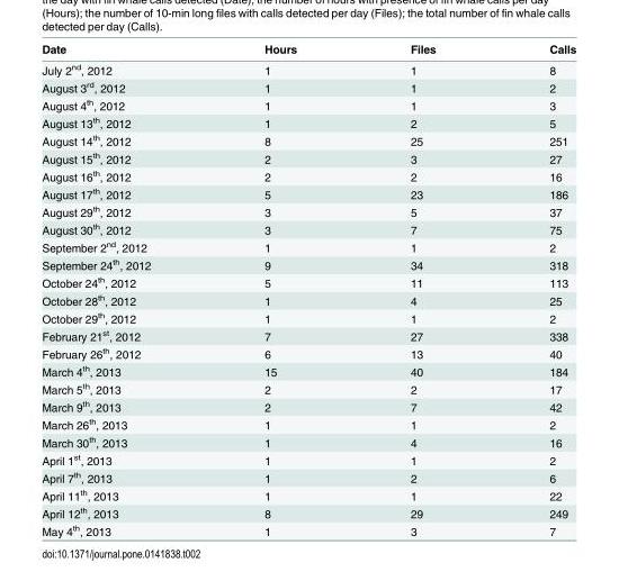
<table><thead><tr><td>Date</td><td>Hours</td><td>Files</td><td>Calls</td></tr></thead><tbody><tr><td>July 2<sup>nd</sup>, 2012</td><td>1</td><td>1</td><td>8</td></tr><tr><td>August 3<sup>rd</sup>, 2012</td><td>1</td><td>1</td><td>2</td></tr><tr><td>August 4<sup>th</sup>, 2012</td><td>1</td><td>1</td><td>3</td></tr><tr><td>August 13<sup>th</sup>, 2012</td><td>1</td><td>2</td><td>5</td></tr><tr><td>August 14<sup>th</sup>, 2012</td><td>8</td><td>25</td><td>251</td></tr><tr><td>August 15<sup>th</sup>, 2012</td><td>2</td><td>3</td><td>27</td></tr><tr><td>August 16<sup>th</sup>, 2012</td><td>2</td><td>2</td><td>16</td></tr><tr><td>August 17<sup>th</sup>, 2012</td><td>5</td><td>23</td><td>186</td></tr><tr><td>August 29<sup>th</sup>, 2012</td><td>3</td><td>5</td><td>37</td></tr><tr><td>August 30<sup>th</sup>, 2012</td><td>3</td><td>7</td><td>75</td></tr><tr><td>September 2<sup>nd</sup>, 2012</td><td>1</td><td>1</td><td>2</td></tr><tr><td>September 24<sup>th</sup>, 2012</td><td>9</td><td>34</td><td>318</td></tr><tr><td>October 24<sup>th</sup>, 2012</td><td>5</td><td>11</td><td>113</td></tr><tr><td>October 28<sup>th</sup>, 2012</td><td>1</td><td>4</td><td>25</td></tr><tr><td>October 29<sup>th</sup>, 2012</td><td>1</td><td>1</td><td>2</td></tr><tr><td>February 21<sup>st</sup>, 2012</td><td>7</td><td>27</td><td>338</td></tr><tr><td>February 26<sup>th</sup>, 2012</td><td>6</td><td>13</td><td>40</td></tr><tr><td>March 4<sup>th</sup>, 2013</td><td>15</td><td>40</td><td>184</td></tr><tr><td>March 5<sup>th</sup>, 2013</td><td>2</td><td>2</td><td>17</td></tr><tr><td>March 9<sup>th</sup>, 2013</td><td>2</td><td>7</td><td>42</td></tr><tr><td>March 26<sup>th</sup>, 2013</td><td>1</td><td>1</td><td>2</td></tr><tr><td>March 30<sup>th</sup>, 2013</td><td>1</td><td>4</td><td>16</td></tr><tr><td>April 1<sup>st</sup>, 2013</td><td>1</td><td>1</td><td>2</td></tr><tr><td>April 7<sup>th</sup>, 2013</td><td>1</td><td>2</td><td>6</td></tr><tr><td>April 11<sup>th</sup>, 2013</td><td>1</td><td>1</td><td>22</td></tr><tr><td>April 12<sup>th</sup>, 2013</td><td>8</td><td>29</td><td>249</td></tr><tr><td>May 4<sup>th</sup>, 2013</td><td>1</td><td>3</td><td>7</td></tr></tbody></table>